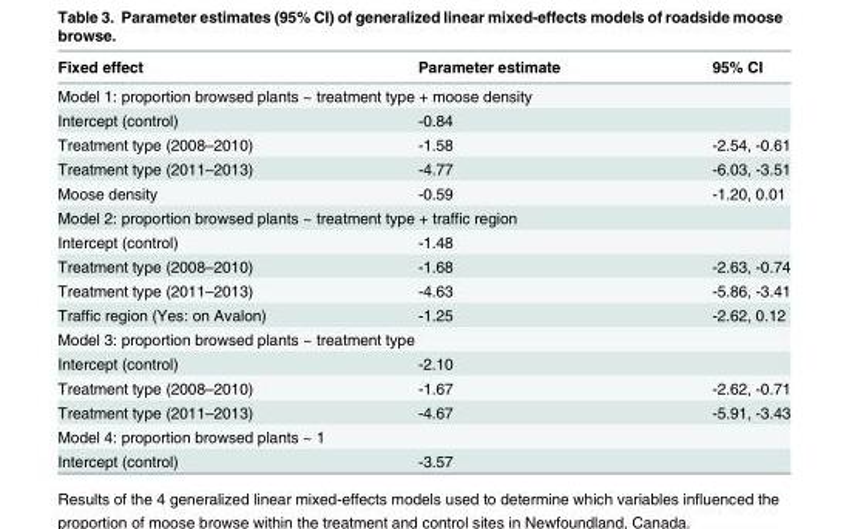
<table><thead><tr><td>Fixed effect</td><td>Parameter estimate</td><td>95% CI</td></tr></thead><tbody><tr><td colspan="3">Model 1: proportion browsed plants ~ treatment type + moose density</td></tr><tr><td>Intercept (control)</td><td>-0.84</td><td></td></tr><tr><td>Treatment type (2008–2010)</td><td>-1.58</td><td>-2.54, -0.61</td></tr><tr><td>Treatment type (2011–2013)</td><td>-4.77</td><td>-6.03, -3.51</td></tr><tr><td>Moose density</td><td>-0.59</td><td>-1.20, 0.01</td></tr><tr><td colspan="3">Model 2: proportion browsed plants ~ treatment type + traffic region</td></tr><tr><td>Intercept (control)</td><td>-1.48</td><td></td></tr><tr><td>Treatment type (2008–2010)</td><td>-1.68</td><td>-2.63, -0.74</td></tr><tr><td>Treatment type (2011–2013)</td><td>-4.63</td><td>-5.86, -3.41</td></tr><tr><td>Traffic region (Yes: on Avalon)</td><td>-1.25</td><td>-2.62, 0.12</td></tr><tr><td colspan="3">Model 3: proportion browsed plants ~ treatment type</td></tr><tr><td>Intercept (control)</td><td>-2.10</td><td></td></tr><tr><td>Treatment type (2008–2010)</td><td>-1.67</td><td>-2.62, -0.71</td></tr><tr><td>Treatment type (2011–2013)</td><td>-4.67</td><td>-5.91, -3.43</td></tr><tr><td colspan="3">Model 4: proportion browsed plants ~ 1</td></tr><tr><td>Intercept (control)</td><td>-3.57</td><td></td></tr></tbody></table>